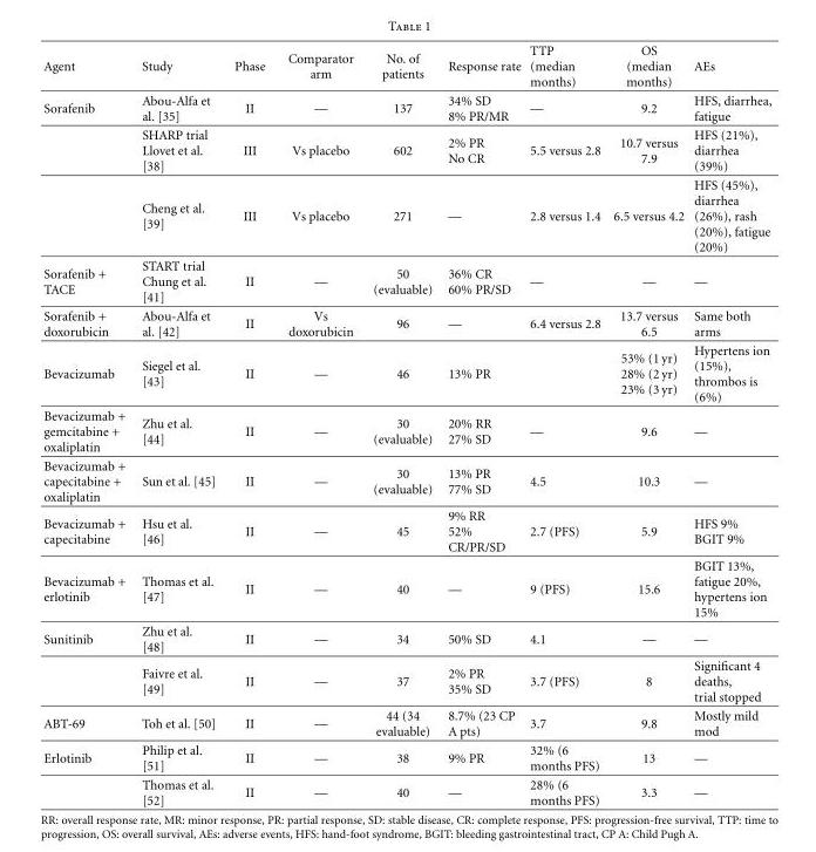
<table><thead><tr><td>Agent</td><td>Study</td><td>Phase</td><td>Comparator arm</td><td>No. of patients</td><td>Response rate</td><td>TTP (median months)</td><td>OS (median months)</td><td>AEs</td></tr></thead><tbody><tr><td rowspan="3">Sorafenib</td><td>Abou-Alfa et al. [35]</td><td>II</td><td>—</td><td>137</td><td>34% SD 8% PR/MR</td><td>—</td><td>9.2</td><td>HFS, diarrhea, fatigue</td></tr><tr><td>SHARP trial Llovet et al. [38]</td><td>III</td><td>Vs placebo</td><td>602</td><td>2% PR No CR</td><td>5.5 versus 2.8</td><td>10.7 versus 7.9</td><td>HFS (21%), diarrhea (39%)</td></tr><tr><td>Cheng et al. [39]</td><td>III</td><td>Vs placebo</td><td>271</td><td>—</td><td>2.8 versus 1.4</td><td>6.5 versus 4.2</td><td>HFS (45%), diarrhea (26%), rash (20%), fatigue (20%)</td></tr><tr><td>Sorafenib + TACE</td><td>START trial Chung et al. [41]</td><td>II</td><td>—</td><td>50 (evaluable)</td><td>36% CR 60% PR/SD</td><td>—</td><td>—</td><td>—</td></tr><tr><td>Sorafenib + doxorubicin</td><td>Abou-Alfa et al. [42]</td><td>II</td><td>Vs doxorubicin</td><td>96</td><td>—</td><td>6.4 versus 2.8</td><td>13.7 versus 6.5</td><td>Same both arms</td></tr><tr><td>Bevacizumab</td><td>Siegel et al. [43]</td><td>II</td><td>—</td><td>46</td><td>13% PR</td><td></td><td>53% (1 yr) 28% (2 yr) 23% (3 yr)</td><td>Hypertens ion (15%), thrombos is (6%)</td></tr><tr><td>Bevacizumab + gemcitabine + oxaliplatin</td><td>Zhu et al. [44]</td><td>II</td><td>—</td><td>30 (evaluable)</td><td>20% RR 27% SD</td><td>—</td><td>9.6</td><td>—</td></tr><tr><td>Bevacizumab + capecitabine + oxaliplatin</td><td>Sun et al. [45]</td><td>II</td><td>—</td><td>30 (evaluable)</td><td>13% PR 77% SD</td><td>4.5</td><td>10.3</td><td>—</td></tr><tr><td>Bevacizumab + capecitabine</td><td>Hsu et al. [46]</td><td>II</td><td>—</td><td>45</td><td>9% RR 52% CR/PR/SD</td><td>2.7 (PFS)</td><td>5.9</td><td>HFS 9% BGIT 9%</td></tr><tr><td>Bevacizumab + erlotinib</td><td>Thomas et al. [47]</td><td>II</td><td>—</td><td>40</td><td>—</td><td>9 (PFS)</td><td>15.6</td><td>BGIT 13%, fatigue 20%, hypertens ion 15%</td></tr><tr><td rowspan="2">Sunitinib</td><td>Zhu et al. [48]</td><td>II</td><td>—</td><td>34</td><td>50% SD</td><td>4.1</td><td>—</td><td>—</td></tr><tr><td>Faivre et al. [49]</td><td>II</td><td>—</td><td>37</td><td>2% PR 35% SD</td><td>3.7 (PFS)</td><td>8</td><td>Significant 4 deaths, trial stopped</td></tr><tr><td>ABT-69</td><td>Toh et al. [50]</td><td>II</td><td>—</td><td>44 (34 evaluable)</td><td>8.7% (23 CP A pts)</td><td>3.7</td><td>9.8</td><td>Mostly mild mod</td></tr><tr><td rowspan="2">Erlotinib</td><td>Philip et al. [51]</td><td>II</td><td>—</td><td>38</td><td>9% PR</td><td>32% (6 months PFS)</td><td>13</td><td>—</td></tr><tr><td>Thomas et al. [52]</td><td>II</td><td>—</td><td>40</td><td>—</td><td>28% (6 months PFS)</td><td>3.3</td><td>—</td></tr></tbody></table>